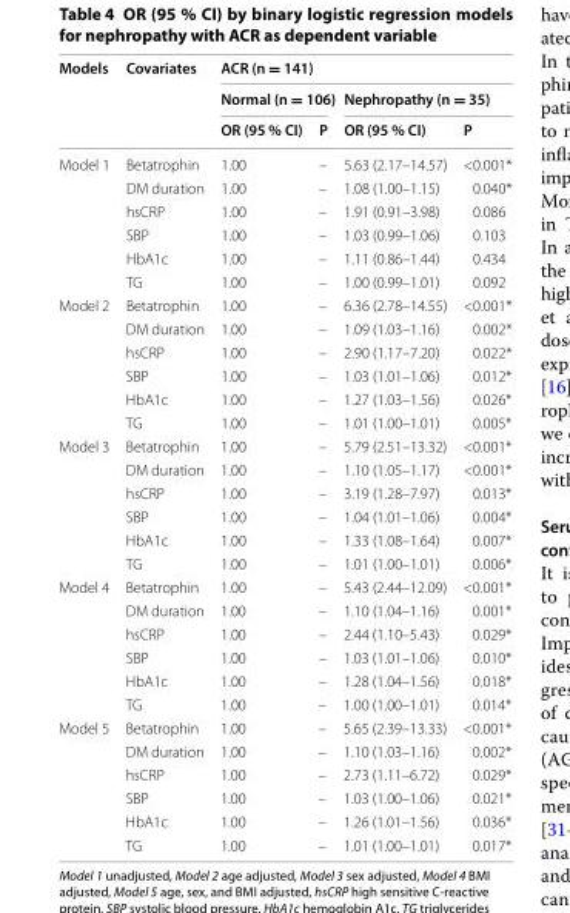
<table><thead><tr><td rowspan="3">Models</td><td rowspan="3">Covariates</td><td colspan="4">ACR (n = 141)</td></tr><tr><td colspan="2">Normal (n = 106)</td><td colspan="2">Nephropathy (n = 35)</td></tr><tr><td>OR (95 % CI)</td><td>P</td><td>OR (95 % CI)</td><td>P</td></tr></thead><tbody><tr><td rowspan="6">Model 1</td><td>Betatrophin</td><td>1.00</td><td>–</td><td>5.63 (2.17–14.57)</td><td>&lt;0.001*</td></tr><tr><td>DM duration</td><td>1.00</td><td>–</td><td>1.08 (1.00–1.15)</td><td>0.040*</td></tr><tr><td>hsCRP</td><td>1.00</td><td>–</td><td>1.91 (0.91–3.98)</td><td>0.086</td></tr><tr><td>SBP</td><td>1.00</td><td>–</td><td>1.03 (0.99–1.06)</td><td>0.103</td></tr><tr><td>HbA1c</td><td>1.00</td><td>–</td><td>1.11 (0.86–1.44)</td><td>0.434</td></tr><tr><td>TG</td><td>1.00</td><td>–</td><td>1.00 (0.99–1.01)</td><td>0.092</td></tr><tr><td rowspan="6">Model 2</td><td>Betatrophin</td><td>1.00</td><td>–</td><td>6.36 (2.78–14.55)</td><td>&lt;0.001*</td></tr><tr><td>DM duration</td><td>1.00</td><td>–</td><td>1.09 (1.03–1.16)</td><td>0.002*</td></tr><tr><td>hsCRP</td><td>1.00</td><td>–</td><td>2.90 (1.17–7.20)</td><td>0.022*</td></tr><tr><td>SBP</td><td>1.00</td><td>–</td><td>1.03 (1.01–1.06)</td><td>0.012*</td></tr><tr><td>HbA1c</td><td>1.00</td><td>–</td><td>1.27 (1.03–1.56)</td><td>0.026*</td></tr><tr><td>TG</td><td>1.00</td><td>–</td><td>1.01 (1.00–1.01)</td><td>0.005*</td></tr><tr><td rowspan="6">Model 3</td><td>Betatrophin</td><td>1.00</td><td>–</td><td>5.79 (2.51–13.32)</td><td>&lt;0.001*</td></tr><tr><td>DM duration</td><td>1.00</td><td>–</td><td>1.10 (1.05–1.17)</td><td>&lt;0.001*</td></tr><tr><td>hsCRP</td><td>1.00</td><td>–</td><td>3.19 (1.28–7.97)</td><td>0.013*</td></tr><tr><td>SBP</td><td>1.00</td><td>–</td><td>1.04 (1.01–1.06)</td><td>0.004*</td></tr><tr><td>HbA1c</td><td>1.00</td><td>–</td><td>1.33 (1.08–1.64)</td><td>0.007*</td></tr><tr><td>TG</td><td>1.00</td><td>–</td><td>1.01 (1.00–1.01)</td><td>0.006*</td></tr><tr><td rowspan="6">Model 4</td><td>Betatrophin</td><td>1.00</td><td>–</td><td>5.43 (2.44–12.09)</td><td>&lt;0.001*</td></tr><tr><td>DM duration</td><td>1.00</td><td>–</td><td>1.10 (1.04–1.16)</td><td>0.001*</td></tr><tr><td>hsCRP</td><td>1.00</td><td>–</td><td>2.44 (1.10–5.43)</td><td>0.029*</td></tr><tr><td>SBP</td><td>1.00</td><td>–</td><td>1.03 (1.01–1.06)</td><td>0.010*</td></tr><tr><td>HbA1c</td><td>1.00</td><td>–</td><td>1.28 (1.04–1.56)</td><td>0.018*</td></tr><tr><td>TG</td><td>1.00</td><td>–</td><td>1.00 (1.00–1.01)</td><td>0.014*</td></tr><tr><td rowspan="6">Model 5</td><td>Betatrophin</td><td>1.00</td><td>–</td><td>5.65 (2.39–13.33)</td><td>&lt;0.001*</td></tr><tr><td>DM duration</td><td>1.00</td><td>–</td><td>1.10 (1.03–1.16)</td><td>0.002*</td></tr><tr><td>hsCRP</td><td>1.00</td><td>–</td><td>2.73 (1.11–6.72)</td><td>0.029*</td></tr><tr><td>SBP</td><td>1.00</td><td>–</td><td>1.03 (1.00–1.06)</td><td>0.021*</td></tr><tr><td>HbA1c</td><td>1.00</td><td>–</td><td>1.26 (1.01–1.56)</td><td>0.036*</td></tr><tr><td>TG</td><td>1.00</td><td>–</td><td>1.01 (1.00–1.01)</td><td>0.017*</td></tr></tbody></table>